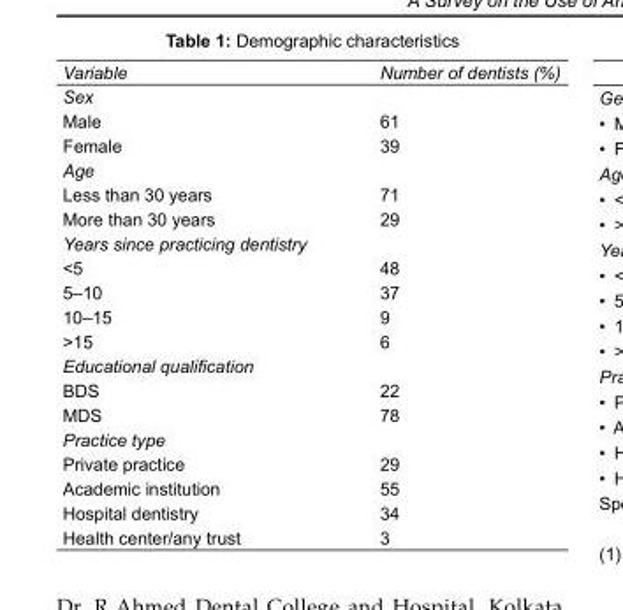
<table><tbody><tr><td>Variable</td><td>Number of dentists (%)</td></tr><tr><td colspan="2">Sex</td></tr><tr><td>Male</td><td>61</td></tr><tr><td>Female</td><td>39</td></tr><tr><td colspan="2">Age</td></tr><tr><td>Less than 30 years</td><td>71</td></tr><tr><td>More than 30 years</td><td>29</td></tr><tr><td colspan="2">Years since practicing dentistry</td></tr><tr><td>&lt;5</td><td>48</td></tr><tr><td>5–10</td><td>37</td></tr><tr><td>10–15</td><td>9</td></tr><tr><td>&gt;15</td><td>6</td></tr><tr><td colspan="2">Educational qualification</td></tr><tr><td>BDS</td><td>22</td></tr><tr><td>MDS</td><td>78</td></tr><tr><td colspan="2">Practice type</td></tr><tr><td>Private practice</td><td>29</td></tr><tr><td>Academic institution</td><td>55</td></tr><tr><td>Hospital dentistry</td><td>34</td></tr><tr><td>Health center/any trust</td><td>3</td></tr></tbody></table>